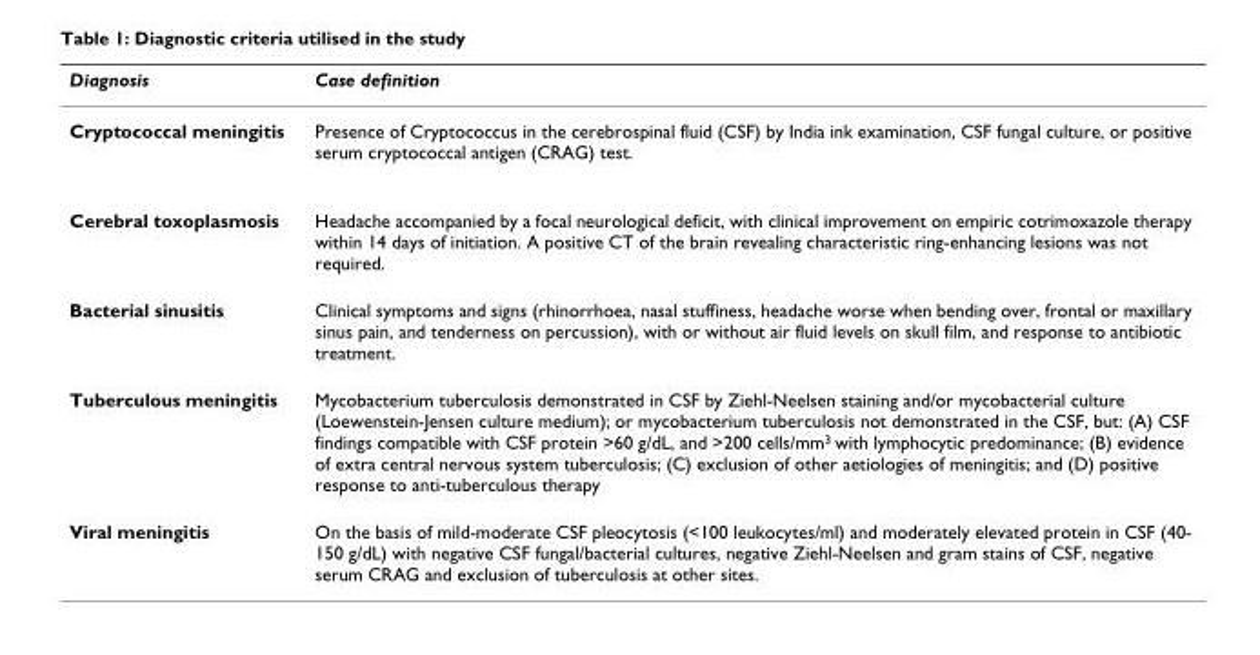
<table><thead><tr><td>Diagnosis</td><td>Case definition</td></tr></thead><tbody><tr><td>Cryptococcal meningitis</td><td>Presence of Cryptococcus in the cerebrospinal fluid (CSF) by India ink examination, CSF fungal culture, or positive serum cryptococcal antigen (CRAG) test.</td></tr><tr><td>Cerebral toxoplasmosis</td><td>Headache accompanied by a focal neurological deficit, with clinical improvement on empiric cotrimoxazole therapy within 14 days of initiation. A positive CT of the brain revealing characteristic ring-enhancing lesions was not required.</td></tr><tr><td>Bacterial sinusitis</td><td>Clinical symptoms and signs (rhinorrhoea, nasal stuffiness, headache worse when bending over, frontal or maxillary sinus pain, and tenderness on percussion), with or without air fluid levels on skull film, and response to antibiotic treatment.</td></tr><tr><td>Tuberculous meningitis</td><td>Mycobacterium tuberculosis demonstrated in CSF by Ziehl-Neelsen staining and/or mycobacterial culture (Loewenstein-Jensen culture medium); or mycobacterium tuberculosis not demonstrated in the CSF, but: (A) CSF findings compatible with CSF protein &gt;60 g/dL, and &gt;200 cells/mm<sup>3</sup> with lymphocytic predominance; (B) evidence of extra central nervous system tuberculosis; (C) exclusion of other aetiologies of meningitis; and (D) positive response to anti-tuberculous therapy</td></tr><tr><td>Viral meningitis</td><td>On the basis of mild-moderate CSF pleocytosis (&lt;100 leukocytes/ml) and moderately elevated protein in CSF (40- 150 g/dL) with negative CSF fungal/bacterial cultures, negative Ziehl-Neelsen and gram stains of CSF, negative serum CRAG and exclusion of tuberculosis at other sites.</td></tr></tbody></table>